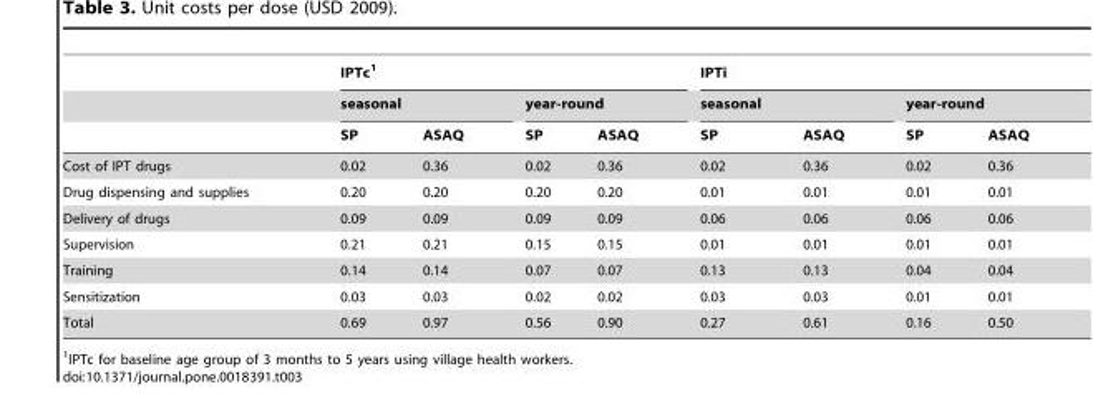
<table><thead><tr><td rowspan="3"></td><td colspan="4">IPTc<sup>1</sup></td><td colspan="4">IPTi</td></tr><tr><td colspan="2">seasonal</td><td colspan="2">year-round</td><td colspan="2">seasonal</td><td colspan="2">year-round</td></tr><tr><td>SP</td><td>ASAQ</td><td>SP</td><td>ASAQ</td><td>SP</td><td>ASAQ</td><td>SP</td><td>ASAQ</td></tr></thead><tbody><tr><td>Cost of IPT drugs</td><td>0.02</td><td>0.36</td><td>0.02</td><td>0.36</td><td>0.02</td><td>0.36</td><td>0.02</td><td>0.36</td></tr><tr><td>Drug dispensing and supplies</td><td>0.20</td><td>0.20</td><td>0.20</td><td>0.20</td><td>0.01</td><td>0.01</td><td>0.01</td><td>0.01</td></tr><tr><td>Delivery of drugs</td><td>0.09</td><td>0.09</td><td>0.09</td><td>0.09</td><td>0.06</td><td>0.06</td><td>0.06</td><td>0.06</td></tr><tr><td>Supervision</td><td>0.21</td><td>0.21</td><td>0.15</td><td>0.15</td><td>0.01</td><td>0.01</td><td>0.01</td><td>0.01</td></tr><tr><td>Training</td><td>0.14</td><td>0.14</td><td>0.07</td><td>0.07</td><td>0.13</td><td>0.13</td><td>0.04</td><td>0.04</td></tr><tr><td>Sensitization</td><td>0.03</td><td>0.03</td><td>0.02</td><td>0.02</td><td>0.03</td><td>0.03</td><td>0.01</td><td>0.01</td></tr><tr><td>Total</td><td>0.69</td><td>0.97</td><td>0.56</td><td>0.90</td><td>0.27</td><td>0.61</td><td>0.16</td><td>0.50</td></tr></tbody></table>